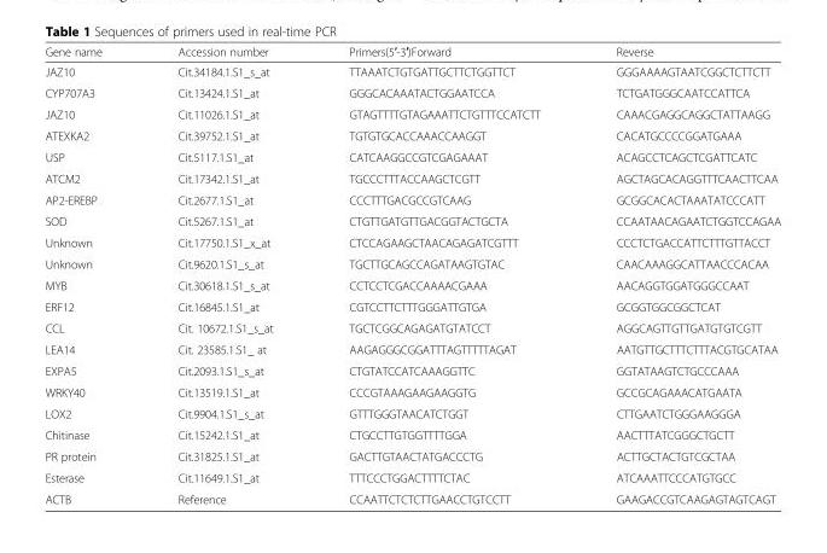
<table><thead><tr><td>Gene name</td><td>Accession number</td><td>Primers(5′-3′)Forward</td><td>Reverse</td></tr></thead><tbody><tr><td>JAZ10</td><td>Cit.34184.1.S1_s_at</td><td>TTAAATCTGTGATTGCTTCTGGTTCT</td><td>GGGAAAAGTAATCGGCTCTTCTT</td></tr><tr><td>CYP707A3</td><td>Cit.13424.1.S1_at</td><td>GGGCACAAATACTGGAATCCA</td><td>TCTGATGGGCAATCCATTCA</td></tr><tr><td>JAZ10</td><td>Cit.11026.1.S1_at</td><td>GTAGTTTTGTAGAAATTCTGTTTCCATCTT</td><td>CAAACGAGGCAGGCTATTAAGG</td></tr><tr><td>ATEXKA2</td><td>Cit.39752.1.S1_at</td><td>TGTGTGCACCAAACCAAGGT</td><td>CACATGCCCCGGATGAAA</td></tr><tr><td>USP</td><td>Cit.5117.1.S1_at</td><td>CATCAAGGCCGTCGAGAAAT</td><td>ACAGCCTCAGCTCGATTCATC</td></tr><tr><td>ATCM2</td><td>Cit.17342.1.S1_at</td><td>TGCCCTTTACCAAGCTCGTT</td><td>AGCTAGCACAGGTTTCAACTTCAA</td></tr><tr><td>AP2-EREBP</td><td>Cit.2677.1.S1_at</td><td>CCCTTTGACGCCGTCAAG</td><td>GCGGCACACTAAATATCCCATT</td></tr><tr><td>SOD</td><td>Cit.5267.1.S1_at</td><td>CTGTTGATGTTGACGGTACTGCTA</td><td>CCAATAACAGAATCTGGTCCAGAA</td></tr><tr><td>Unknown</td><td>Cit.17750.1.S1_x_at</td><td>CTCCAGAAGCTAACAGAGATCGTTT</td><td>CCCTCTGACCATTCTTTGTTACCT</td></tr><tr><td>Unknown</td><td>Cit.9620.1.S1_s_at</td><td>TGCTTGCAGCCAGATAAGTGTAC</td><td>CAACAAAGGCATTAACCCACAA</td></tr><tr><td>MYB</td><td>Cit.30618.1.S1_s_at</td><td>CCTCCTCGACCAAAACGAAA</td><td>AACAGGTGGATGGGCCAAT</td></tr><tr><td>ERF12</td><td>Cit.16845.1.S1_at</td><td>CGTCCTTCTTTGGGATTGTGA</td><td>GCGGTGGCGGCTCAT</td></tr><tr><td>CCL</td><td>Cit. 10672.1.S1_s_at</td><td>TGCTCGGCAGAGATGTATCCT</td><td>AGGCAGTTGTTGATGTGTCGTT</td></tr><tr><td>LEA14</td><td>Cit. 23585.1.S1_ at</td><td>AAGAGGGCGGATTTAGTTTTTAGAT</td><td>AATGTTGCTTTCTTTACGTGCATAA</td></tr><tr><td>EXPA5</td><td>Cit.2093.1.S1_s_at</td><td>CTGTATCCATCAAAGGTTC</td><td>GGTATAAGTCTGCCCAAA</td></tr><tr><td>WRKY40</td><td>Cit.13519.1.S1_at</td><td>CCCGTAAAGAAGAAGGTG</td><td>GCCGCAGAAACATGAATA</td></tr><tr><td>LOX2</td><td>Cit.9904.1.S1_s_at</td><td>GTTTGGGTAACATCTGGT</td><td>CTTGAATCTGGGAAGGGA</td></tr><tr><td>Chitinase</td><td>Cit.15242.1.S1_at</td><td>CTGCCTTGTGGTTTTGGA</td><td>AACTTTATCGGGCTGCTT</td></tr><tr><td>PR protein</td><td>Cit.31825.1.S1_at</td><td>GACTTGTAACTATGACCCTG</td><td>ACTTGCTACTGTCGCTAA</td></tr><tr><td>Esterase</td><td>Cit.11649.1.S1_at</td><td>TTTCCCTGGACTTTTCTAC</td><td>ATCAAATTCCCATGTGCC</td></tr><tr><td>ACTB</td><td>Reference</td><td>CCAATTCTCTCTTGAACCTGTCCTT</td><td>GAAGACCGTCAAGAGTAGTCAGT</td></tr></tbody></table>